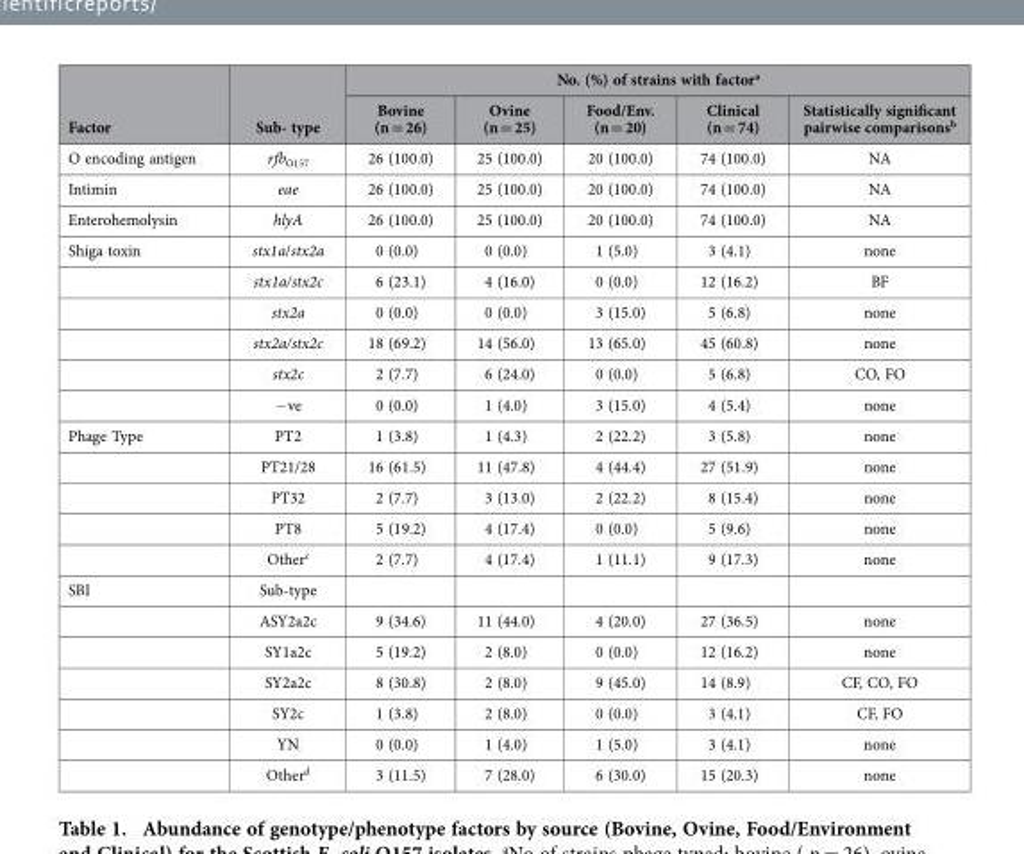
<table><thead><tr><td rowspan="2">Factor</td><td rowspan="2">Sub- type</td><td colspan="5">No. (%) of strains with factor<sup>a</sup></td></tr><tr><td>Bovine (n = 26)</td><td>Ovine (n = 25)</td><td>Food/Env. (n = 20)</td><td>Clinical (n = 74)</td><td>Statistically significant pairwise comparisons<sup>b</sup></td></tr></thead><tbody><tr><td>O encoding antigen</td><td>rfb<sub>O157</sub></td><td>26 (100.0)</td><td>25 (100.0)</td><td>20 (100.0)</td><td>74 (100.0)</td><td>NA</td></tr><tr><td>Intimin</td><td>eae</td><td>26 (100.0)</td><td>25 (100.0)</td><td>20 (100.0)</td><td>74 (100.0)</td><td>NA</td></tr><tr><td>Enterohemolysin</td><td>hlyA</td><td>26 (100.0)</td><td>25 (100.0)</td><td>20 (100.0)</td><td>74 (100.0)</td><td>NA</td></tr><tr><td rowspan="6">Shiga toxin</td><td>stx1a/stx2a</td><td>0 (0.0)</td><td>0 (0.0)</td><td>1 (5.0)</td><td>3 (4.1)</td><td>none</td></tr><tr><td>stx1a/stx2c</td><td>6 (23.1)</td><td>4 (16.0)</td><td>0 (0.0)</td><td>12 (16.2)</td><td>BF</td></tr><tr><td>stx2a</td><td>0 (0.0)</td><td>0 (0.0)</td><td>3 (15.0)</td><td>5 (6.8)</td><td>none</td></tr><tr><td>stx2a/stx2c</td><td>18 (69.2)</td><td>14 (56.0)</td><td>13 (65.0)</td><td>45 (60.8)</td><td>none</td></tr><tr><td>stx2c</td><td>2 (7.7)</td><td>6 (24.0)</td><td>0 (0.0)</td><td>5 (6.8)</td><td>CO, FO</td></tr><tr><td>− ve</td><td>0 (0.0)</td><td>1 (4.0)</td><td>3 (15.0)</td><td>4 (5.4)</td><td>none</td></tr><tr><td rowspan="5">Phage Type</td><td>PT2</td><td>1 (3.8)</td><td>1 (4.3)</td><td>2 (22.2)</td><td>3 (5.8)</td><td>none</td></tr><tr><td>PT21/28</td><td>16 (61.5)</td><td>11 (47.8)</td><td>4 (44.4)</td><td>27 (51.9)</td><td>none</td></tr><tr><td>PT32</td><td>2 (7.7)</td><td>3 (13.0)</td><td>2 (22.2)</td><td>8 (15.4)</td><td>none</td></tr><tr><td>PT8</td><td>5 (19.2)</td><td>4 (17.4)</td><td>0 (0.0)</td><td>5 (9.6)</td><td>none</td></tr><tr><td>Other<sup>c</sup></td><td>2 (7.7)</td><td>4 (17.4)</td><td>1 (11.1)</td><td>9 (17.3)</td><td>none</td></tr><tr><td rowspan="7">SBI</td><td>Sub-type</td><td></td><td></td><td></td><td></td><td></td></tr><tr><td>ASY2a2c</td><td>9 (34.6)</td><td>11 (44.0)</td><td>4 (20.0)</td><td>27 (36.5)</td><td>none</td></tr><tr><td>SY1a2c</td><td>5 (19.2)</td><td>2 (8.0)</td><td>0 (0.0)</td><td>12 (16.2)</td><td>none</td></tr><tr><td>SY2a2c</td><td>8 (30.8)</td><td>2 (8.0)</td><td>9 (45.0)</td><td>14 (8.9)</td><td>CF, CO, FO</td></tr><tr><td>SY2c</td><td>1 (3.8)</td><td>2 (8.0)</td><td>0 (0.0)</td><td>3 (4.1)</td><td>CF, FO</td></tr><tr><td>YN</td><td>0 (0.0)</td><td>1 (4.0)</td><td>1 (5.0)</td><td>3 (4.1)</td><td>none</td></tr><tr><td>Other<sup>d</sup></td><td>3 (11.5)</td><td>7 (28.0)</td><td>6 (30.0)</td><td>15 (20.3)</td><td>none</td></tr></tbody></table>